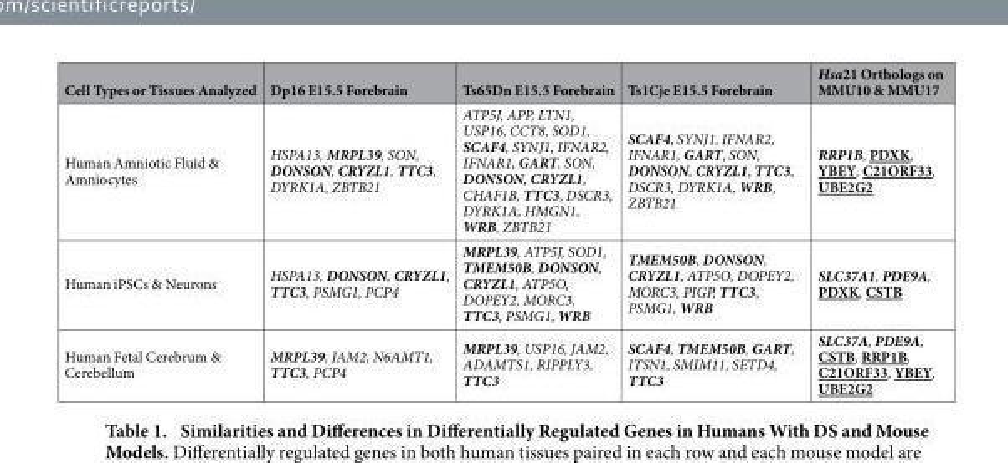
<table><thead><tr><td>Cell Types or Tissues Analyzed</td><td>Dp16 E15.5 Forebrain</td><td>Ts65Dn E15.5 Forebrain</td><td>Ts1Cje E15.5 Forebrain</td><td>Hsa21 Orthologs on MMU10 &amp; MMU17</td></tr></thead><tbody><tr><td>Human Amniotic Fluid &amp; Amniocytes</td><td>HSPA13, MRPL39, SON, DONSON, CRYZL1, TTC3, DYRK1A, ZBTB21</td><td>ATP5J, APP, LTN1, USP16, CCT8, SOD1, SCAF4, SYNJ1, IFNAR2, IFNAR1, GART, SON, DONSON, CRYZL1, CHAF1B, TTC3, DSCR3, DYRK1A, HMGN1, WRB, ZBTB21</td><td>SCAF4, SYNJ1, IFNAR2, IFNAR1, GART, SON, DONSON, CRYZL1, TTC3, DSCR3, DYRK1A, WRB, ZBTB21</td><td>RRP1B, PDXK, YBEY, C21ORF33, UBE2G2</td></tr><tr><td>Human iPSCs &amp; Neurons</td><td>HSPA13, DONSON, CRYZL1, TTC3, PSMG1, PCP4</td><td>MRPL39, ATP5J, SOD1, TMEM50B, DONSON, CRYZL1, ATP5O, DOPEY2, MORC3, TTC3, PSMG1, WRB</td><td>TMEM50B, DONSON, CRYZL1, ATP5O, DOPEY2, MORC3, PIGP, TTC3, PSMG1, WRB</td><td>SLC37A1, PDE9A, PDXK, CSTB</td></tr><tr><td>Human Fetal Cerebrum &amp; Cerebellum</td><td>MRPL39, JAM2, N6AMT1, TTC3, PCP4</td><td>MRPL39, USP16, JAM2, ADAMTS1, RIPPLY3, TTC3</td><td>SCAF4, TMEM50B, GART, ITSN1, SMIM11, SETD4, TTC3</td><td>SLC37A, PDE9A, CSTB, RRP1B, C21ORF33, YBEY, UBE2G2</td></tr></tbody></table>